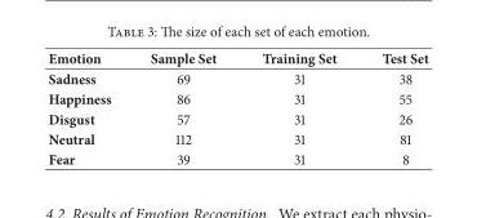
<table><thead><tr><td>Emotion</td><td>Sample Set</td><td>Training Set</td><td>Test Set</td></tr></thead><tbody><tr><td>Sadness</td><td>69</td><td>31</td><td>38</td></tr><tr><td>Happiness</td><td>86</td><td>31</td><td>55</td></tr><tr><td>Disgust</td><td>57</td><td>31</td><td>26</td></tr><tr><td>Neutral</td><td>112</td><td>31</td><td>81</td></tr><tr><td>Fear</td><td>39</td><td>31</td><td>8</td></tr></tbody></table>